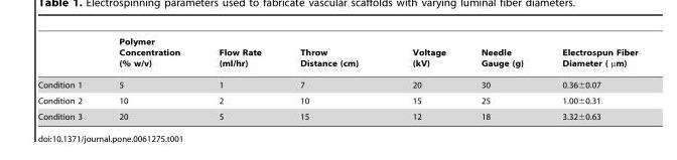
<table><thead><tr><td></td><td>Polymer Concentration (% w/v)</td><td>Flow Rate (ml/hr)</td><td>Throw Distance (cm)</td><td>Voltage (kV)</td><td>Needle Gauge (g)</td><td>Electrospun Fiber Diameter ( µm)</td></tr></thead><tbody><tr><td>Condition 1</td><td>5</td><td>1</td><td>7</td><td>20</td><td>30</td><td>0.36±0.07</td></tr><tr><td>Condition 2</td><td>10</td><td>2</td><td>10</td><td>15</td><td>25</td><td>1.00±0.31</td></tr><tr><td>Condition 3</td><td>20</td><td>5</td><td>15</td><td>12</td><td>18</td><td>3.32±0.63</td></tr></tbody></table>